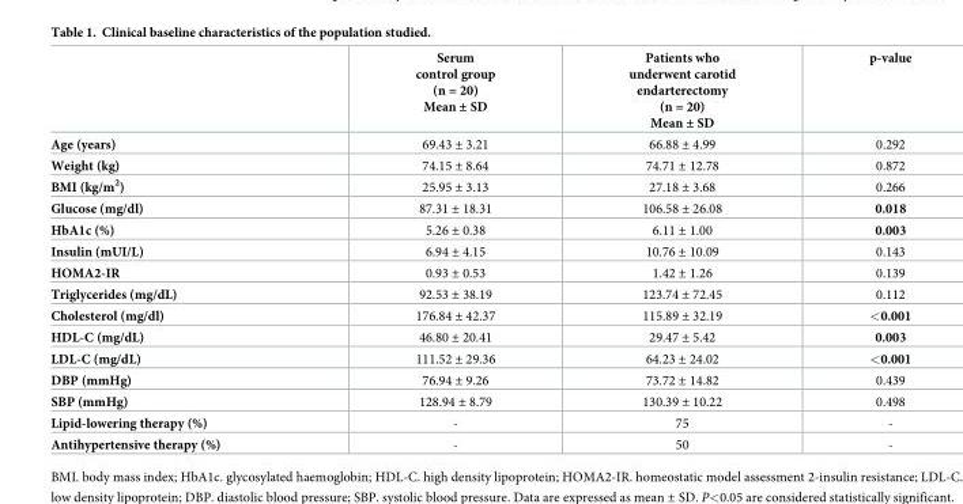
<table><thead><tr><td></td><td>Serum control group (n = 20) Mean ± SD</td><td>Patients who underwent carotid endarterectomy (n = 20) Mean ± SD</td><td>p-value</td></tr></thead><tbody><tr><td>Age (years)</td><td>69.43 ± 3.21</td><td>66.88 ± 4.99</td><td>0.292</td></tr><tr><td>Weight (kg)</td><td>74.15 ± 8.64</td><td>74.71 ± 12.78</td><td>0.872</td></tr><tr><td>BMI (kg/m<sup>2</sup>)</td><td>25.95 ± 3.13</td><td>27.18 ± 3.68</td><td>0.266</td></tr><tr><td>Glucose (mg/dl)</td><td>87.31 ± 18.31</td><td>106.58 ± 26.08</td><td>0.018</td></tr><tr><td>HbA1c (%)</td><td>5.26 ± 0.38</td><td>6.11 ± 1.00</td><td>0.003</td></tr><tr><td>Insulin (mUI/L)</td><td>6.94 ± 4.15</td><td>10.76 ± 10.09</td><td>0.143</td></tr><tr><td>HOMA2-IR</td><td>0.93 ± 0.53</td><td>1.42 ± 1.26</td><td>0.139</td></tr><tr><td>Triglycerides (mg/dL)</td><td>92.53 ± 38.19</td><td>123.74 ± 72.45</td><td>0.112</td></tr><tr><td>Cholesterol (mg/dl)</td><td>176.84 ± 42.37</td><td>115.89 ± 32.19</td><td>&lt;0.001</td></tr><tr><td>HDL-C (mg/dL)</td><td>46.80 ± 20.41</td><td>29.47 ± 5.42</td><td>0.003</td></tr><tr><td>LDL-C (mg/dL)</td><td>111.52 ± 29.36</td><td>64.23 ± 24.02</td><td>&lt;0.001</td></tr><tr><td>DBP (mmHg)</td><td>76.94 ± 9.26</td><td>73.72 ± 14.82</td><td>0.439</td></tr><tr><td>SBP (mmHg)</td><td>128.94 ± 8.79</td><td>130.39 ± 10.22</td><td>0.498</td></tr><tr><td>Lipid-lowering therapy (%)</td><td>-</td><td>75</td><td>-</td></tr><tr><td>Antihypertensive therapy (%)</td><td>-</td><td>50</td><td>-</td></tr></tbody></table>